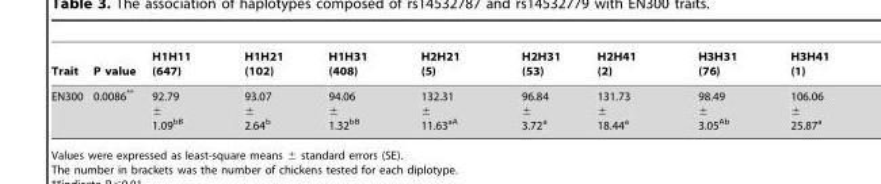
<table><thead><tr><td>Trait</td><td>P value</td><td>H1H11 (647)</td><td>H1H21 (102)</td><td>H1H31 (408)</td><td>H2H21 (5)</td><td>H2H31 (53)</td><td>H2H41 (2)</td><td>H3H31 (76)</td><td>H3H41 (1)</td></tr></thead><tbody><tr><td>EN300</td><td>0.0086**</td><td>92.79 ± 1.09<sup>bB</sup></td><td>93.07 ± 2.64<sup>b</sup></td><td>94.06 ± 1.32<sup>bB</sup></td><td>132.31 ± 11.63<sup>aA</sup></td><td>96.84 ± 3.72<sup>a</sup></td><td>131.73 ± 18.44<sup>a</sup></td><td>98.49 ± 3.05<sup>Ab</sup></td><td>106.06 ± 25.87<sup>a</sup></td></tr></tbody></table>